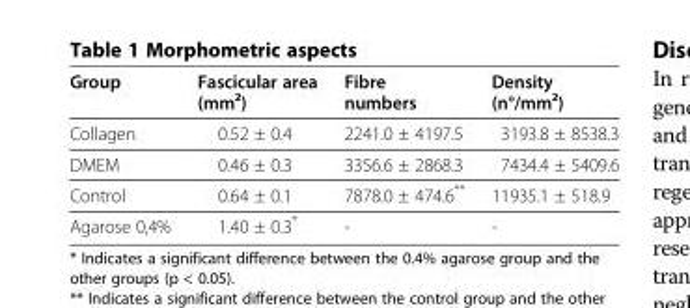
<table><thead><tr><td>Group</td><td>Fascicular area (mm²)</td><td>Fibre numbers</td><td>Density (n°/mm²)</td></tr></thead><tbody><tr><td>Collagen</td><td>0.52 ± 0.4</td><td>2241.0 ± 4197.5</td><td>3193.8 ± 8538.3</td></tr><tr><td>DMEM</td><td>0.46 ± 0.3</td><td>3356.6 ± 2868.3</td><td>7434.4 ± 5409.6</td></tr><tr><td>Control</td><td>0.64 ± 0.1</td><td>7878.0 ± 474.6**</td><td>11935.1 ± 518.9</td></tr><tr><td>Agarose 0,4%</td><td>1.40 ± 0.3*</td><td>-</td><td>-</td></tr></tbody></table>